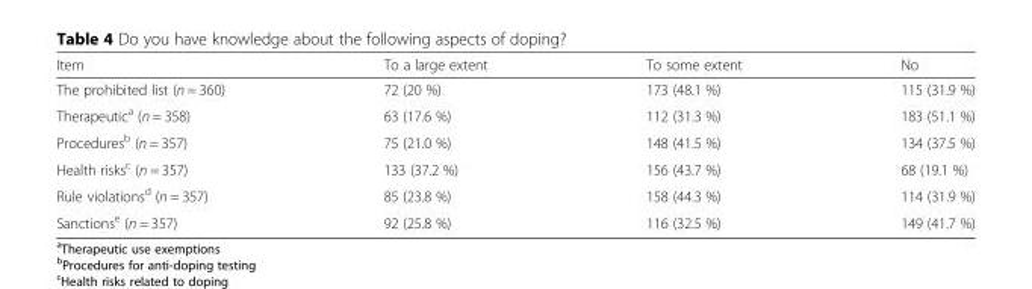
<table><thead><tr><td>Item</td><td>To a large extent</td><td>To some extent</td><td>No</td></tr></thead><tbody><tr><td>The prohibited list (n = 360)</td><td>72 (20 %)</td><td>173 (48.1 %)</td><td>115 (31.9 %)</td></tr><tr><td>Therapeutic<sup>a</sup> (n = 358)</td><td>63 (17.6 %)</td><td>112 (31.3 %)</td><td>183 (51.1 %)</td></tr><tr><td>Procedures<sup>b</sup> (n = 357)</td><td>75 (21.0 %)</td><td>148 (41.5 %)</td><td>134 (37.5 %)</td></tr><tr><td>Health risks<sup>c</sup> (n = 357)</td><td>133 (37.2 %)</td><td>156 (43.7 %)</td><td>68 (19.1 %)</td></tr><tr><td>Rule violations<sup>d</sup> (n = 357)</td><td>85 (23.8 %)</td><td>158 (44.3 %)</td><td>114 (31.9 %)</td></tr><tr><td>Sanctions<sup>e</sup> (n = 357)</td><td>92 (25.8 %)</td><td>116 (32.5 %)</td><td>149 (41.7 %)</td></tr></tbody></table>